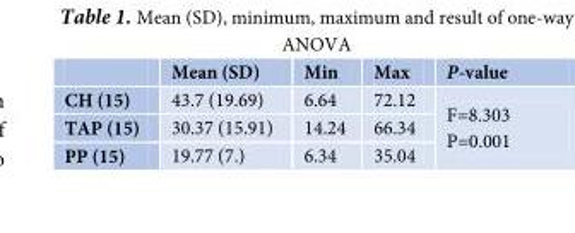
<table><thead><tr><td></td><td>Mean (SD)</td><td>Min</td><td>Max</td><td>P-value</td></tr></thead><tbody><tr><td>CH (15)</td><td>43.7 (19.69)</td><td>6.64</td><td>72.12</td><td rowspan="3">F=8.303 P=0.001</td></tr><tr><td>TAP (15)</td><td>30.37 (15.91)</td><td>14.24</td><td>66.34</td></tr><tr><td>PP (15)</td><td>19.77 (7.)</td><td>6.34</td><td>35.04</td></tr></tbody></table>